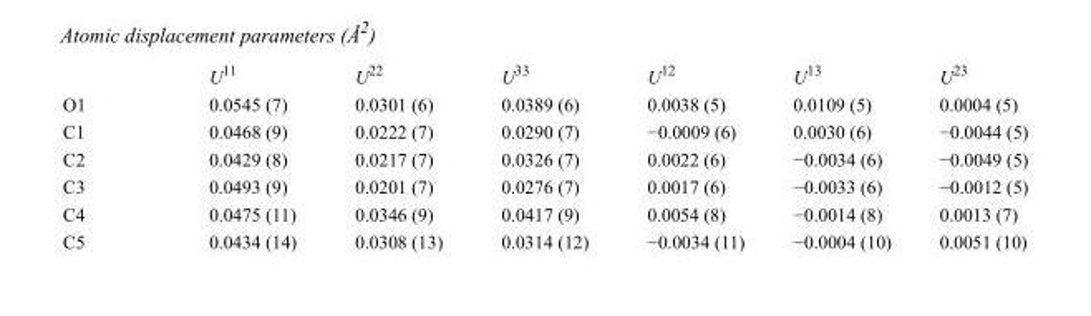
<table><thead><tr><td></td><td>U<sup>11</sup></td><td>U<sup>22</sup></td><td>U<sup>33</sup></td><td>U<sup>12</sup></td><td>U<sup>13</sup></td><td>U<sup>23</sup></td></tr></thead><tbody><tr><td>O1</td><td>0.0545 (7)</td><td>0.0301 (6)</td><td>0.0389 (6)</td><td>0.0038 (5)</td><td>0.0109 (5)</td><td>0.0004 (5)</td></tr><tr><td>C1</td><td>0.0468 (9)</td><td>0.0222 (7)</td><td>0.0290 (7)</td><td>−0.0009 (6)</td><td>0.0030 (6)</td><td>−0.0044 (5)</td></tr><tr><td>C2</td><td>0.0429 (8)</td><td>0.0217 (7)</td><td>0.0326 (7)</td><td>0.0022 (6)</td><td>−0.0034 (6)</td><td>−0.0049 (5)</td></tr><tr><td>C3</td><td>0.0493 (9)</td><td>0.0201 (7)</td><td>0.0276 (7)</td><td>0.0017 (6)</td><td>−0.0033 (6)</td><td>−0.0012 (5)</td></tr><tr><td>C4</td><td>0.0475 (11)</td><td>0.0346 (9)</td><td>0.0417 (9)</td><td>0.0054 (8)</td><td>−0.0014 (8)</td><td>0.0013 (7)</td></tr><tr><td>C5</td><td>0.0434 (14)</td><td>0.0308 (13)</td><td>0.0314 (12)</td><td>−0.0034 (11)</td><td>−0.0004 (10)</td><td>0.0051 (10)</td></tr></tbody></table>